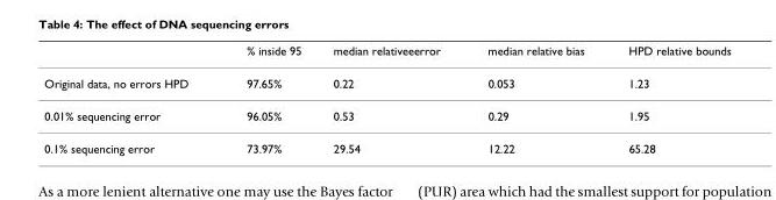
<table><thead><tr><td></td><td>% inside 95</td><td>median relativeeerror</td><td>median relative bias</td><td>HPD relative bounds</td></tr></thead><tbody><tr><td>Original data, no errors HPD</td><td>97.65%</td><td>0.22</td><td>0.053</td><td>1.23</td></tr><tr><td>0.01% sequencing error</td><td>96.05%</td><td>0.53</td><td>0.29</td><td>1.95</td></tr><tr><td>0.1% sequencing error</td><td>73.97%</td><td>29.54</td><td>12.22</td><td>65.28</td></tr></tbody></table>